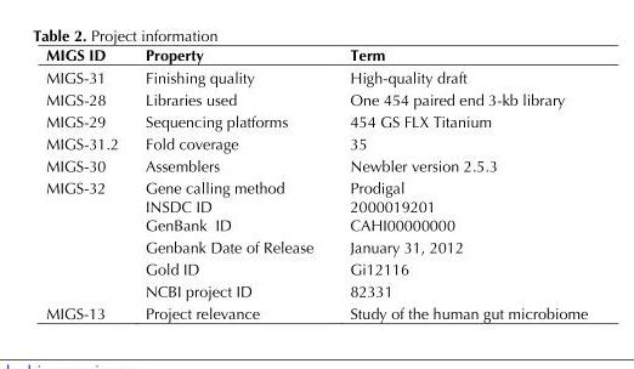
<table><thead><tr><td>MIGS ID</td><td>Property</td><td>Term</td></tr></thead><tbody><tr><td>MIGS-31</td><td>Finishing quality</td><td>High-quality draft</td></tr><tr><td>MIGS-28</td><td>Libraries used</td><td>One 454 paired end 3-kb library</td></tr><tr><td>MIGS-29</td><td>Sequencing platforms</td><td>454 GS FLX Titanium</td></tr><tr><td>MIGS-31.2</td><td>Fold coverage</td><td>35</td></tr><tr><td>MIGS-30</td><td>Assemblers</td><td>Newbler version 2.5.3</td></tr><tr><td rowspan="5">MIGS-32</td><td>Gene calling method</td><td>Prodigal</td></tr><tr><td>INSDC ID GenBank ID</td><td>2000019201 CAHI00000000</td></tr><tr><td>Genbank Date of Release</td><td>January 31, 2012</td></tr><tr><td>Gold ID</td><td>Gi12116</td></tr><tr><td>NCBI project ID</td><td>82331</td></tr><tr><td>MIGS-13</td><td>Project relevance</td><td>Study of the human gut microbiome</td></tr></tbody></table>